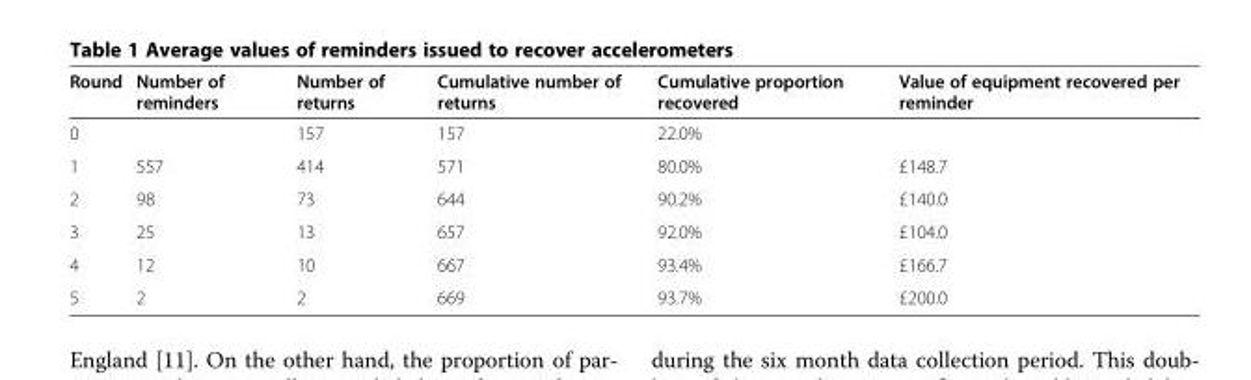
<table><thead><tr><td>Round</td><td>Number of reminders</td><td>Number of returns</td><td>Cumulative number of returns</td><td>Cumulative proportion recovered</td><td>Value of equipment recovered per reminder</td></tr></thead><tbody><tr><td>0</td><td></td><td>157</td><td>157</td><td>22.0%</td><td></td></tr><tr><td>1</td><td>557</td><td>414</td><td>571</td><td>80.0%</td><td>£148.7</td></tr><tr><td>2</td><td>98</td><td>73</td><td>644</td><td>90.2%</td><td>£140.0</td></tr><tr><td>3</td><td>25</td><td>13</td><td>657</td><td>92.0%</td><td>£104.0</td></tr><tr><td>4</td><td>12</td><td>10</td><td>667</td><td>93.4%</td><td>£166.7</td></tr><tr><td>5</td><td>2</td><td>2</td><td>669</td><td>93.7%</td><td>£200.0</td></tr></tbody></table>